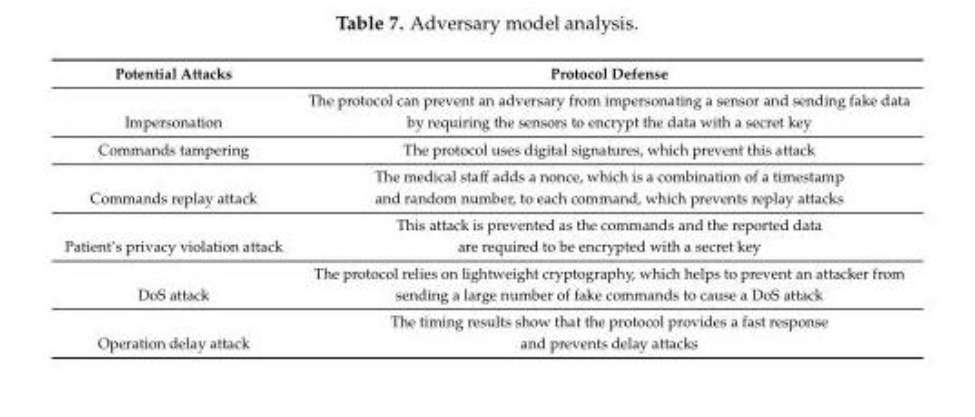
<table><thead><tr><td>Potential Attacks</td><td>Protocol Defense</td></tr></thead><tbody><tr><td>Impersonation</td><td>The protocol can prevent an adversary from impersonating a sensor and sending fake data by requiring the sensors to encrypt the data with a secret key</td></tr><tr><td>Commands tampering</td><td>The protocol uses digital signatures, which prevent this attack</td></tr><tr><td>Commands replay attack</td><td>The medical staff adds a nonce, which is a combination of a timestamp and random number, to each command, which prevents replay attacks</td></tr><tr><td>Patient’s privacy violation attack</td><td>This attack is prevented as the commands and the reported data are required to be encrypted with a secret key</td></tr><tr><td>DoS attack</td><td>The protocol relies on lightweight cryptography, which helps to prevent an attacker from sending a large number of fake commands to cause a DoS attack</td></tr><tr><td>Operation delay attack</td><td>The timing results show that the protocol provides a fast response and prevents delay attacks</td></tr></tbody></table>